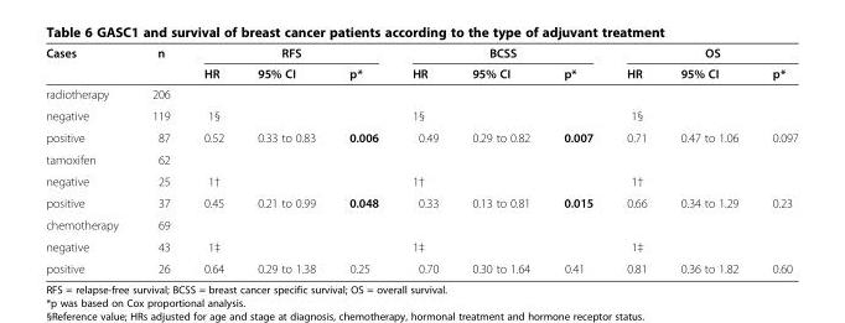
<table><thead><tr><td rowspan="2">Cases</td><td rowspan="2">n</td><td colspan="3">RFS</td><td colspan="3">BCSS</td><td colspan="3">OS</td></tr><tr><td>HR</td><td>95% CI</td><td>p*</td><td>HR</td><td>95% CI</td><td>p*</td><td>HR</td><td>95% CI</td><td>p*</td></tr></thead><tbody><tr><td>radiotherapy</td><td>206</td><td></td><td></td><td></td><td></td><td></td><td></td><td></td><td></td><td></td></tr><tr><td>negative</td><td>119</td><td>1§</td><td></td><td></td><td>1§</td><td></td><td></td><td>1§</td><td></td><td></td></tr><tr><td>positive</td><td>87</td><td>0.52</td><td>0.33 to 0.83</td><td>0.006</td><td>0.49</td><td>0.29 to 0.82</td><td>0.007</td><td>0.71</td><td>0.47 to 1.06</td><td>0.097</td></tr><tr><td>tamoxifen</td><td>62</td><td></td><td></td><td></td><td></td><td></td><td></td><td></td><td></td><td></td></tr><tr><td>negative</td><td>25</td><td>1†</td><td></td><td></td><td>1†</td><td></td><td></td><td>1†</td><td></td><td></td></tr><tr><td>positive</td><td>37</td><td>0.45</td><td>0.21 to 0.99</td><td>0.048</td><td>0.33</td><td>0.13 to 0.81</td><td>0.015</td><td>0.66</td><td>0.34 to 1.29</td><td>0.23</td></tr><tr><td>chemotherapy</td><td>69</td><td></td><td></td><td></td><td></td><td></td><td></td><td></td><td></td><td></td></tr><tr><td>negative</td><td>43</td><td>1‡</td><td></td><td></td><td>1‡</td><td></td><td></td><td>1‡</td><td></td><td></td></tr><tr><td>positive</td><td>26</td><td>0.64</td><td>0.29 to 1.38</td><td>0.25</td><td>0.70</td><td>0.30 to 1.64</td><td>0.41</td><td>0.81</td><td>0.36 to 1.82</td><td>0.60</td></tr></tbody></table>